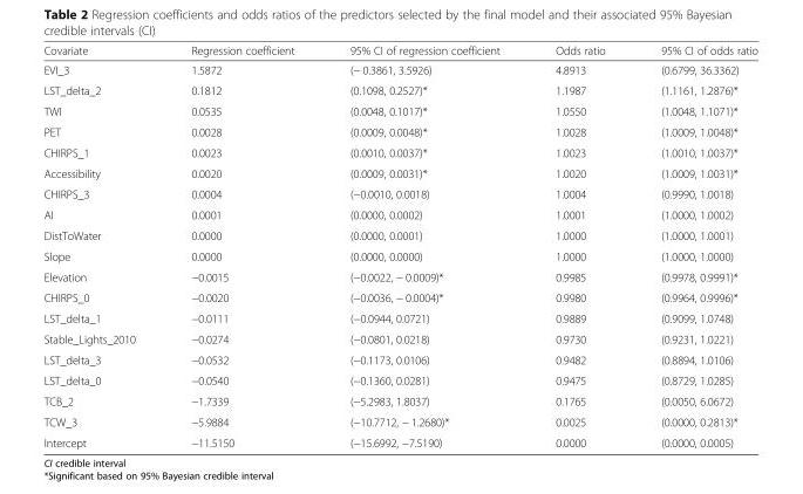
<table><thead><tr><td>Covariate</td><td>Regression coefficient</td><td>95% CI of regression coefficient</td><td>Odds ratio</td><td>95% CI of odds ratio</td></tr></thead><tbody><tr><td>EVI_3</td><td>1.5872</td><td>(− 0.3861, 3.5926)</td><td>4.8913</td><td>(0.6799, 36.3362)</td></tr><tr><td>LST_delta_2</td><td>0.1812</td><td>(0.1098, 0.2527)*</td><td>1.1987</td><td>(1.1161, 1.2876)*</td></tr><tr><td>TWI</td><td>0.0535</td><td>(0.0048, 0.1017)*</td><td>1.0550</td><td>(1.0048, 1.1071)*</td></tr><tr><td>PET</td><td>0.0028</td><td>(0.0009, 0.0048)*</td><td>1.0028</td><td>(1.0009, 1.0048)*</td></tr><tr><td>CHIRPS_1</td><td>0.0023</td><td>(0.0010, 0.0037)*</td><td>1.0023</td><td>(1.0010, 1.0037)*</td></tr><tr><td>Accessibility</td><td>0.0020</td><td>(0.0009, 0.0031)*</td><td>1.0020</td><td>(1.0009, 1.0031)*</td></tr><tr><td>CHIRPS_3</td><td>0.0004</td><td>(−0.0010, 0.0018)</td><td>1.0004</td><td>(0.9990, 1.0018)</td></tr><tr><td>AI</td><td>0.0001</td><td>(0.0000, 0.0002)</td><td>1.0001</td><td>(1.0000, 1.0002)</td></tr><tr><td>DistToWater</td><td>0.0000</td><td>(0.0000, 0.0001)</td><td>1.0000</td><td>(1.0000, 1.0001)</td></tr><tr><td>Slope</td><td>0.0000</td><td>(0.0000, 0.0000)</td><td>1.0000</td><td>(1.0000, 1.0000)</td></tr><tr><td>Elevation</td><td>−0.0015</td><td>(−0.0022, − 0.0009)*</td><td>0.9985</td><td>(0.9978, 0.9991)*</td></tr><tr><td>CHIRPS_0</td><td>−0.0020</td><td>(−0.0036, − 0.0004)*</td><td>0.9980</td><td>(0.9964, 0.9996)*</td></tr><tr><td>LST_delta_1</td><td>−0.0111</td><td>(−0.0944, 0.0721)</td><td>0.9889</td><td>(0.9099, 1.0748)</td></tr><tr><td>Stable_Lights_2010</td><td>−0.0274</td><td>(−0.0801, 0.0218)</td><td>0.9730</td><td>(0.9231, 1.0221)</td></tr><tr><td>LST_delta_3</td><td>−0.0532</td><td>(−0.1173, 0.0106)</td><td>0.9482</td><td>(0.8894, 1.0106)</td></tr><tr><td>LST_delta_0</td><td>−0.0540</td><td>(−0.1360, 0.0281)</td><td>0.9475</td><td>(0.8729, 1.0285)</td></tr><tr><td>TCB_2</td><td>−1.7339</td><td>(−5.2983, 1.8037)</td><td>0.1765</td><td>(0.0050, 6.0672)</td></tr><tr><td>TCW_3</td><td>−5.9884</td><td>(−10.7712, − 1.2680)*</td><td>0.0025</td><td>(0.0000, 0.2813)*</td></tr><tr><td>Intercept</td><td>−11.5150</td><td>(−15.6992, −7.5190)</td><td>0.0000</td><td>(0.0000, 0.0005)</td></tr></tbody></table>